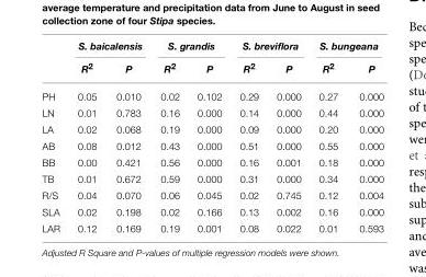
<table><thead><tr><td rowspan="2"></td><td colspan="2">S. baicalensis</td><td colspan="2">S. grandis</td><td colspan="2">S. breviflora</td><td colspan="2">S. bungeana</td></tr><tr><td>R<sup>2</sup></td><td>P</td><td>R<sup>2</sup></td><td>P</td><td>R<sup>2</sup></td><td>P</td><td>R<sup>2</sup></td><td>P</td></tr></thead><tbody><tr><td>PH</td><td>0.05</td><td>0.010</td><td>0.02</td><td>0.102</td><td>0.29</td><td>0.000</td><td>0.27</td><td>0.000</td></tr><tr><td>LN</td><td>0.01</td><td>0.783</td><td>0.16</td><td>0.000</td><td>0.14</td><td>0.000</td><td>0.44</td><td>0.000</td></tr><tr><td>LA</td><td>0.02</td><td>0.068</td><td>0.19</td><td>0.000</td><td>0.09</td><td>0.000</td><td>0.20</td><td>0.000</td></tr><tr><td>AB</td><td>0.08</td><td>0.012</td><td>0.43</td><td>0.000</td><td>0.51</td><td>0.000</td><td>0.55</td><td>0.000</td></tr><tr><td>BB</td><td>0.00</td><td>0.421</td><td>0.56</td><td>0.000</td><td>0.16</td><td>0.001</td><td>0.18</td><td>0.000</td></tr><tr><td>TB</td><td>0.01</td><td>0.672</td><td>0.59</td><td>0.000</td><td>0.31</td><td>0.000</td><td>0.34</td><td>0.000</td></tr><tr><td>R/S</td><td>0.04</td><td>0.070</td><td>0.06</td><td>0.045</td><td>0.02</td><td>0.745</td><td>0.12</td><td>0.004</td></tr><tr><td>SLA</td><td>0.02</td><td>0.198</td><td>0.02</td><td>0.166</td><td>0.13</td><td>0.002</td><td>0.16</td><td>0.000</td></tr><tr><td>LAR</td><td>0.12</td><td>0.169</td><td>0.19</td><td>0.001</td><td>0.08</td><td>0.022</td><td>0.01</td><td>0.593</td></tr></tbody></table>